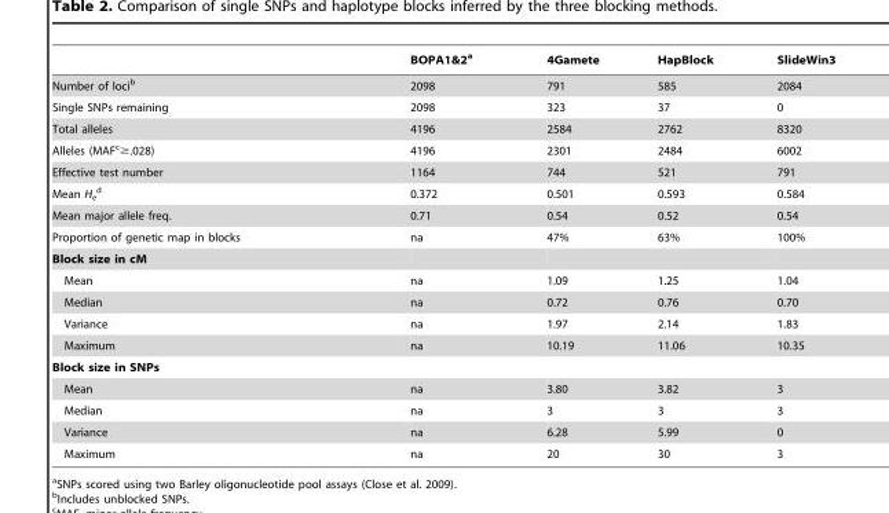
<table><thead><tr><td></td><td>BOPA1&amp;2<sup>a</sup></td><td>4Gamete</td><td>HapBlock</td><td>SlideWin3</td></tr></thead><tbody><tr><td>Number of loci<sup>b</sup></td><td>2098</td><td>791</td><td>585</td><td>2084</td></tr><tr><td>Single SNPs remaining</td><td>2098</td><td>323</td><td>37</td><td>0</td></tr><tr><td>Total alleles</td><td>4196</td><td>2584</td><td>2762</td><td>8320</td></tr><tr><td>Alleles (MAF<sup>c</sup>≥.028)</td><td>4196</td><td>2301</td><td>2484</td><td>6002</td></tr><tr><td>Effective test number</td><td>1164</td><td>744</td><td>521</td><td>791</td></tr><tr><td>Mean H<sub>e</sub> d</td><td>0.372</td><td>0.501</td><td>0.593</td><td>0.584</td></tr><tr><td>Mean major allele freq.</td><td>0.71</td><td>0.54</td><td>0.52</td><td>0.54</td></tr><tr><td>Proportion of genetic map in blocks</td><td>na</td><td>47%</td><td>63%</td><td>100%</td></tr><tr><td colspan="5">Block size in cM</td></tr><tr><td>Mean</td><td>na</td><td>1.09</td><td>1.25</td><td>1.04</td></tr><tr><td>Median</td><td>na</td><td>0.72</td><td>0.76</td><td>0.70</td></tr><tr><td>Variance</td><td>na</td><td>1.97</td><td>2.14</td><td>1.83</td></tr><tr><td>Maximum</td><td>na</td><td>10.19</td><td>11.06</td><td>10.35</td></tr><tr><td colspan="5">Block size in SNPs</td></tr><tr><td>Mean</td><td>na</td><td>3.80</td><td>3.82</td><td>3</td></tr><tr><td>Median</td><td>na</td><td>3</td><td>3</td><td>3</td></tr><tr><td>Variance</td><td>na</td><td>6.28</td><td>5.99</td><td>0</td></tr><tr><td>Maximum</td><td>na</td><td>20</td><td>30</td><td>3</td></tr></tbody></table>